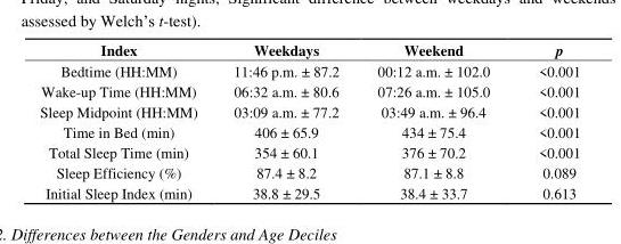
<table><thead><tr><td>Index</td><td>Weekdays</td><td>Weekend</td><td>p</td></tr></thead><tbody><tr><td>Bedtime (HH:MM)</td><td>11:46 p.m. ± 87.2</td><td>00:12 a.m. ± 102.0</td><td>&lt;0.001</td></tr><tr><td>Wake-up Time (HH:MM)</td><td>06:32 a.m. ± 80.6</td><td>07:26 a.m. ± 105.0</td><td>&lt;0.001</td></tr><tr><td>Sleep Midpoint (HH:MM)</td><td>03:09 a.m. ± 77.2</td><td>03:49 a.m. ± 96.4</td><td>&lt;0.001</td></tr><tr><td>Time in Bed (min)</td><td>406 ± 65.9</td><td>434 ± 75.4</td><td>&lt;0.001</td></tr><tr><td>Total Sleep Time (min)</td><td>354 ± 60.1</td><td>376 ± 70.2</td><td>&lt;0.001</td></tr><tr><td>Sleep Efficiency (%)</td><td>87.4 ± 8.2</td><td>87.1 ± 8.8</td><td>0.089</td></tr><tr><td>Initial Sleep Index (min)</td><td>38.8 ± 29.5</td><td>38.4 ± 33.7</td><td>0.613</td></tr></tbody></table>